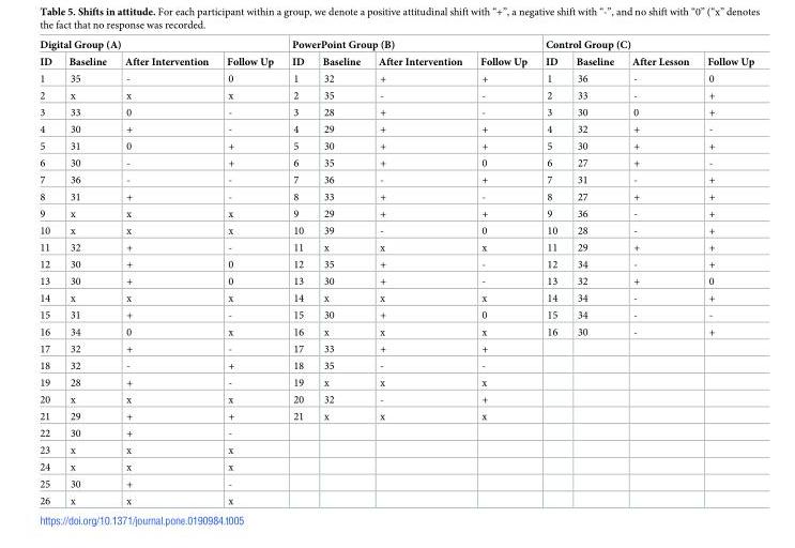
<table><thead><tr><td colspan="4">Digital Group (A)</td><td colspan="4">PowerPoint Group (B)</td><td colspan="4">Control Group (C)</td></tr><tr><td>ID</td><td>Baseline</td><td>After Intervention</td><td>Follow Up</td><td>ID</td><td>Baseline</td><td>After Intervention</td><td>Follow Up</td><td>ID</td><td>Baseline</td><td>After Lesson</td><td>Follow Up</td></tr></thead><tbody><tr><td>1</td><td>35</td><td>-</td><td>0</td><td>1</td><td>32</td><td>+</td><td>+</td><td>1</td><td>36</td><td>-</td><td>0</td></tr><tr><td>2</td><td>x</td><td>x</td><td>x</td><td>2</td><td>35</td><td>-</td><td>-</td><td>2</td><td>33</td><td>-</td><td>+</td></tr><tr><td>3</td><td>33</td><td>0</td><td>-</td><td>3</td><td>28</td><td>+</td><td>-</td><td>3</td><td>30</td><td>0</td><td>+</td></tr><tr><td>4</td><td>30</td><td>+</td><td>-</td><td>4</td><td>29</td><td>+</td><td>+</td><td>4</td><td>32</td><td>+</td><td>-</td></tr><tr><td>5</td><td>31</td><td>0</td><td>+</td><td>5</td><td>30</td><td>+</td><td>+</td><td>5</td><td>30</td><td>+</td><td>+</td></tr><tr><td>6</td><td>30</td><td>-</td><td>+</td><td>6</td><td>35</td><td>+</td><td>0</td><td>6</td><td>27</td><td>+</td><td>-</td></tr><tr><td>7</td><td>36</td><td>-</td><td>-</td><td>7</td><td>36</td><td>-</td><td>+</td><td>7</td><td>31</td><td>-</td><td>+</td></tr><tr><td>8</td><td>31</td><td>+</td><td>-</td><td>8</td><td>33</td><td>+</td><td>-</td><td>8</td><td>27</td><td>+</td><td>+</td></tr><tr><td>9</td><td>x</td><td>x</td><td>x</td><td>9</td><td>29</td><td>+</td><td>+</td><td>9</td><td>36</td><td>-</td><td>+</td></tr><tr><td>10</td><td>x</td><td>x</td><td>x</td><td>10</td><td>39</td><td>-</td><td>0</td><td>10</td><td>28</td><td>-</td><td>+</td></tr><tr><td>11</td><td>32</td><td>+</td><td>-</td><td>11</td><td>x</td><td>x</td><td>x</td><td>11</td><td>29</td><td>+</td><td>+</td></tr><tr><td>12</td><td>30</td><td>+</td><td>0</td><td>12</td><td>35</td><td>+</td><td>-</td><td>12</td><td>34</td><td>-</td><td>+</td></tr><tr><td>13</td><td>30</td><td>+</td><td>0</td><td>13</td><td>30</td><td>+</td><td>-</td><td>13</td><td>32</td><td>+</td><td>0</td></tr><tr><td>14</td><td>x</td><td>x</td><td>x</td><td>14</td><td>x</td><td>x</td><td>x</td><td>14</td><td>34</td><td>-</td><td>+</td></tr><tr><td>15</td><td>31</td><td>+</td><td>-</td><td>15</td><td>30</td><td>+</td><td>0</td><td>15</td><td>34</td><td>-</td><td>-</td></tr><tr><td>16</td><td>34</td><td>0</td><td>x</td><td>16</td><td>x</td><td>x</td><td>x</td><td>16</td><td>30</td><td>-</td><td>+</td></tr><tr><td>17</td><td>32</td><td>+</td><td>-</td><td>17</td><td>33</td><td>+</td><td>+</td><td></td><td></td><td></td><td></td></tr><tr><td>18</td><td>32</td><td>-</td><td>+</td><td>18</td><td>35</td><td>-</td><td>-</td><td></td><td></td><td></td><td></td></tr><tr><td>19</td><td>28</td><td>+</td><td>-</td><td>19</td><td>x</td><td>x</td><td>x</td><td></td><td></td><td></td><td></td></tr><tr><td>20</td><td>x</td><td>x</td><td>x</td><td>20</td><td>32</td><td>-</td><td>+</td><td></td><td></td><td></td><td></td></tr><tr><td>21</td><td>29</td><td>+</td><td>+</td><td>21</td><td>x</td><td>x</td><td>x</td><td></td><td></td><td></td><td></td></tr><tr><td>22</td><td>30</td><td>+</td><td>-</td><td></td><td></td><td></td><td></td><td></td><td></td><td></td><td></td></tr><tr><td>23</td><td>x</td><td>x</td><td>x</td><td></td><td></td><td></td><td></td><td></td><td></td><td></td><td></td></tr><tr><td>24</td><td>x</td><td>x</td><td>x</td><td></td><td></td><td></td><td></td><td></td><td></td><td></td><td></td></tr><tr><td>25</td><td>30</td><td>+</td><td>-</td><td></td><td></td><td></td><td></td><td></td><td></td><td></td><td></td></tr><tr><td>26</td><td>x</td><td>x</td><td>x</td><td></td><td></td><td></td><td></td><td></td><td></td><td></td><td></td></tr></tbody></table>